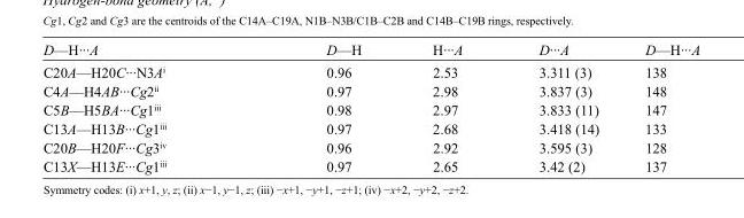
<table><tbody><tr><td>D—H···A</td><td>D—H</td><td>H···A</td><td>D···A</td><td>D—H···A</td></tr><tr><td>C20A—H20C···N3A<sup>i</sup></td><td>0.96</td><td>2.53</td><td>3.311 (3)</td><td>138</td></tr><tr><td>C4A—H4AB···Cg2<sup>ii</sup></td><td>0.97</td><td>2.98</td><td>3.837 (3)</td><td>148</td></tr><tr><td>C5B—H5BA···Cg1<sup>iii</sup></td><td>0.98</td><td>2.97</td><td>3.833 (11)</td><td>147</td></tr><tr><td>C13A—H13B···Cg1<sup>iii</sup></td><td>0.97</td><td>2.68</td><td>3.418 (14)</td><td>133</td></tr><tr><td>C20B—H20F···Cg3<sup>iv</sup></td><td>0.96</td><td>2.92</td><td>3.595 (3)</td><td>128</td></tr><tr><td>C13X—H13E···Cg1<sup>iii</sup></td><td>0.97</td><td>2.65</td><td>3.42 (2)</td><td>137</td></tr></tbody></table>